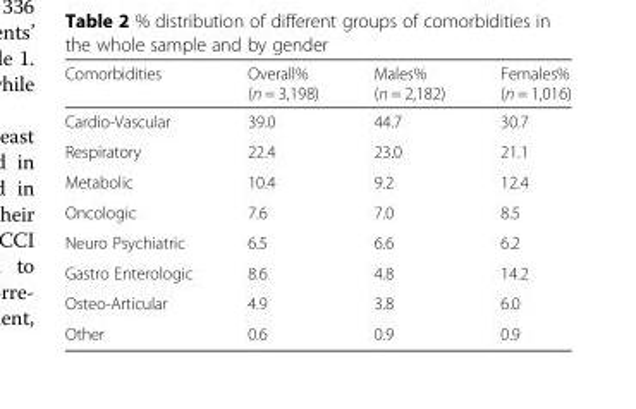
<table><thead><tr><td>Comorbidities</td><td>Overall% (n = 3,198)</td><td>Males% (n = 2,182)</td><td>Females% (n = 1,016)</td></tr></thead><tbody><tr><td>Cardio-Vascular</td><td>39.0</td><td>44.7</td><td>30.7</td></tr><tr><td>Respiratory</td><td>22.4</td><td>23.0</td><td>21.1</td></tr><tr><td>Metabolic</td><td>10.4</td><td>9.2</td><td>12.4</td></tr><tr><td>Oncologic</td><td>7.6</td><td>7.0</td><td>8.5</td></tr><tr><td>Neuro Psychiatric</td><td>6.5</td><td>6.6</td><td>6.2</td></tr><tr><td>Gastro Enterologic</td><td>8.6</td><td>4.8</td><td>14.2</td></tr><tr><td>Osteo-Articular</td><td>4.9</td><td>3.8</td><td>6.0</td></tr><tr><td>Other</td><td>0.6</td><td>0.9</td><td>0.9</td></tr></tbody></table>